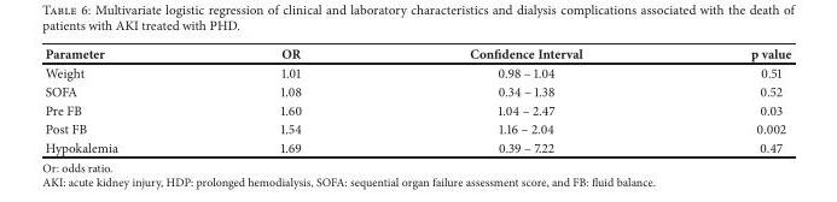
<table><thead><tr><td>Parameter</td><td>OR</td><td>Confidence Interval</td><td>p value</td></tr></thead><tbody><tr><td>Weight</td><td>1.01</td><td>0.98 – 1.04</td><td>0.51</td></tr><tr><td>SOFA</td><td>1.08</td><td>0.34 – 1.38</td><td>0.52</td></tr><tr><td>Pre FB</td><td>1.60</td><td>1.04 – 2.47</td><td>0.03</td></tr><tr><td>Post FB</td><td>1.54</td><td>1.16 – 2.04</td><td>0.002</td></tr><tr><td>Hypokalemia</td><td>1.69</td><td>0.39 – 7.22</td><td>0.47</td></tr></tbody></table>